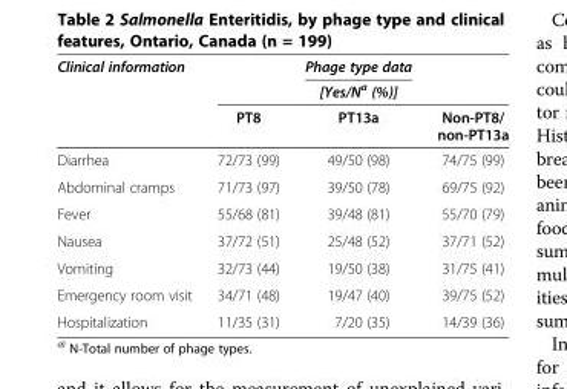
<table><thead><tr><td rowspan="3">Clinical information</td><td rowspan="3">PT8</td><td rowspan="3">Phage type data [Yes/N<sup>a</sup> (%)] PT13a</td><td rowspan="3">Non-PT8/ non-PT13a</td></tr><tr></tr><tr></tr></thead><tbody><tr><td>Diarrhea</td><td>72/73 (99)</td><td>49/50 (98)</td><td>74/75 (99)</td></tr><tr><td>Abdominal cramps</td><td>71/73 (97)</td><td>39/50 (78)</td><td>69/75 (92)</td></tr><tr><td>Fever</td><td>55/68 (81)</td><td>39/48 (81)</td><td>55/70 (79)</td></tr><tr><td>Nausea</td><td>37/72 (51)</td><td>25/48 (52)</td><td>37/71 (52)</td></tr><tr><td>Vomiting</td><td>32/73 (44)</td><td>19/50 (38)</td><td>31/75 (41)</td></tr><tr><td>Emergency room visit</td><td>34/71 (48)</td><td>19/47 (40)</td><td>39/75 (52)</td></tr><tr><td>Hospitalization</td><td>11/35 (31)</td><td>7/20 (35)</td><td>14/39 (36)</td></tr></tbody></table>